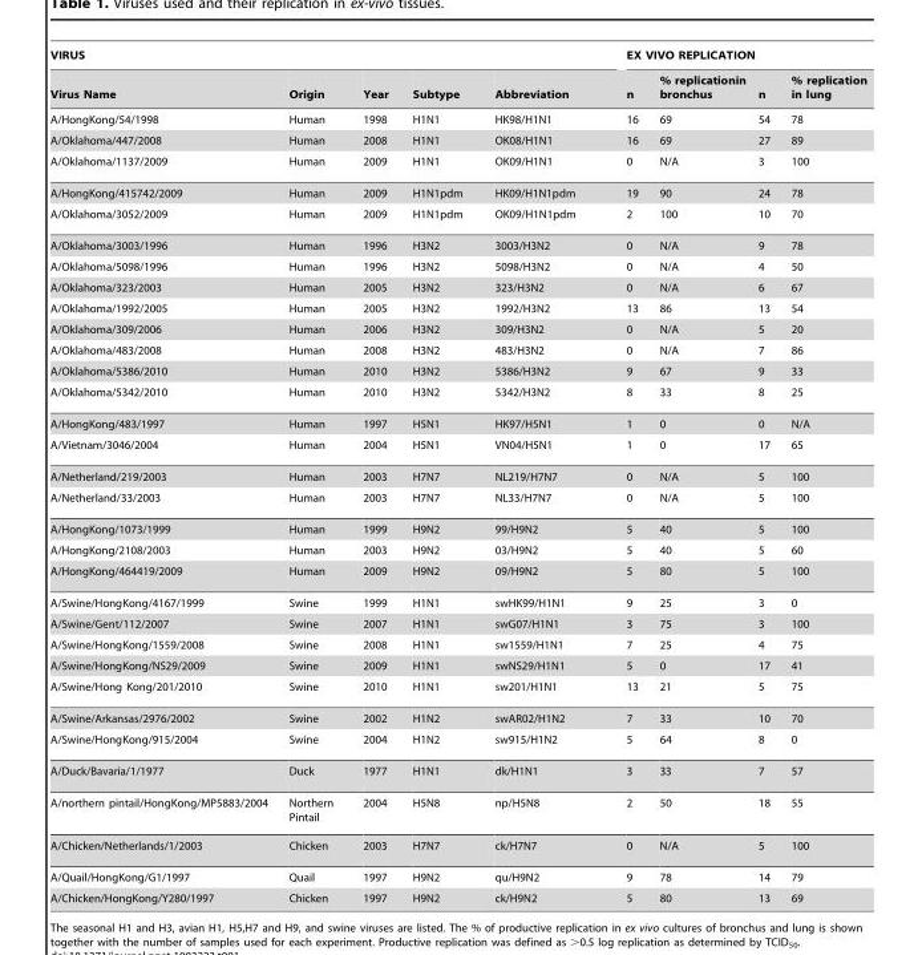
<table><thead><tr><td colspan="5">VIRUS</td><td colspan="4">EX VIVO REPLICATION</td></tr><tr><td>Virus Name</td><td>Origin</td><td>Year</td><td>Subtype</td><td>Abbreviation</td><td>n</td><td>% replicationin bronchus</td><td>n</td><td>% replication in lung</td></tr></thead><tbody><tr><td>A/HongKong/54/1998</td><td>Human</td><td>1998</td><td>H1N1</td><td>HK98/H1N1</td><td>16</td><td>69</td><td>54</td><td>78</td></tr><tr><td>A/Oklahoma/447/2008</td><td>Human</td><td>2008</td><td>H1N1</td><td>OK08/H1N1</td><td>16</td><td>69</td><td>27</td><td>89</td></tr><tr><td>A/Oklahoma/1137/2009</td><td>Human</td><td>2009</td><td>H1N1</td><td>OK09/H1N1</td><td>0</td><td>N/A</td><td>3</td><td>100</td></tr><tr><td>A/HongKong/415742/2009</td><td>Human</td><td>2009</td><td>H1N1pdm</td><td>HK09/H1N1pdm</td><td>19</td><td>90</td><td>24</td><td>78</td></tr><tr><td>A/Oklahoma/3052/2009</td><td>Human</td><td>2009</td><td>H1N1pdm</td><td>OK09/H1N1pdm</td><td>2</td><td>100</td><td>10</td><td>70</td></tr><tr><td>A/Oklahoma/3003/1996</td><td>Human</td><td>1996</td><td>H3N2</td><td>3003/H3N2</td><td>0</td><td>N/A</td><td>9</td><td>78</td></tr><tr><td>A/Oklahoma/5098/1996</td><td>Human</td><td>1996</td><td>H3N2</td><td>5098/H3N2</td><td>0</td><td>N/A</td><td>4</td><td>50</td></tr><tr><td>A/Oklahoma/323/2003</td><td>Human</td><td>2005</td><td>H3N2</td><td>323/H3N2</td><td>0</td><td>N/A</td><td>6</td><td>67</td></tr><tr><td>A/Oklahoma/1992/2005</td><td>Human</td><td>2005</td><td>H3N2</td><td>1992/H3N2</td><td>13</td><td>86</td><td>13</td><td>54</td></tr><tr><td>A/Oklahoma/309/2006</td><td>Human</td><td>2006</td><td>H3N2</td><td>309/H3N2</td><td>0</td><td>N/A</td><td>5</td><td>20</td></tr><tr><td>A/Oklahoma/483/2008</td><td>Human</td><td>2008</td><td>H3N2</td><td>483/H3N2</td><td>0</td><td>N/A</td><td>7</td><td>86</td></tr><tr><td>A/Oklahoma/5386/2010</td><td>Human</td><td>2010</td><td>H3N2</td><td>5386/H3N2</td><td>9</td><td>67</td><td>9</td><td>33</td></tr><tr><td>A/Oklahoma/5342/2010</td><td>Human</td><td>2010</td><td>H3N2</td><td>5342/H3N2</td><td>8</td><td>33</td><td>8</td><td>25</td></tr><tr><td>A/HongKong/483/1997</td><td>Human</td><td>1997</td><td>H5N1</td><td>HK97/H5N1</td><td>1</td><td>0</td><td>0</td><td>N/A</td></tr><tr><td>A/Vietnam/3046/2004</td><td>Human</td><td>2004</td><td>H5N1</td><td>VN04/H5N1</td><td>1</td><td>0</td><td>17</td><td>65</td></tr><tr><td>A/Netherland/219/2003</td><td>Human</td><td>2003</td><td>H7N7</td><td>NL219/H7N7</td><td>0</td><td>N/A</td><td>5</td><td>100</td></tr><tr><td>A/Netherland/33/2003</td><td>Human</td><td>2003</td><td>H7N7</td><td>NL33/H7N7</td><td>0</td><td>N/A</td><td>5</td><td>100</td></tr><tr><td>A/HongKong/1073/1999</td><td>Human</td><td>1999</td><td>H9N2</td><td>99/H9N2</td><td>5</td><td>40</td><td>5</td><td>100</td></tr><tr><td>A/HongKong/2108/2003</td><td>Human</td><td>2003</td><td>H9N2</td><td>03/H9N2</td><td>5</td><td>40</td><td>5</td><td>60</td></tr><tr><td>A/HongKong/464419/2009</td><td>Human</td><td>2009</td><td>H9N2</td><td>09/H9N2</td><td>5</td><td>80</td><td>5</td><td>100</td></tr><tr><td>A/Swine/HongKong/4167/1999</td><td>Swine</td><td>1999</td><td>H1N1</td><td>swHK99/H1N1</td><td>9</td><td>25</td><td>3</td><td>0</td></tr><tr><td>A/Swine/Gent/112/2007</td><td>Swine</td><td>2007</td><td>H1N1</td><td>swG07/H1N1</td><td>3</td><td>75</td><td>3</td><td>100</td></tr><tr><td>A/Swine/HongKong/1559/2008</td><td>Swine</td><td>2008</td><td>H1N1</td><td>sw1559/H1N1</td><td>7</td><td>25</td><td>4</td><td>75</td></tr><tr><td>A/Swine/HongKong/NS29/2009</td><td>Swine</td><td>2009</td><td>H1N1</td><td>swNS29/H1N1</td><td>5</td><td>0</td><td>17</td><td>41</td></tr><tr><td>A/Swine/Hong Kong/201/2010</td><td>Swine</td><td>2010</td><td>H1N1</td><td>sw201/H1N1</td><td>13</td><td>21</td><td>5</td><td>75</td></tr><tr><td>A/Swine/Arkansas/2976/2002</td><td>Swine</td><td>2002</td><td>H1N2</td><td>swAR02/H1N2</td><td>7</td><td>33</td><td>10</td><td>70</td></tr><tr><td>A/Swine/HongKong/915/2004</td><td>Swine</td><td>2004</td><td>H1N2</td><td>sw915/H1N2</td><td>5</td><td>64</td><td>8</td><td>0</td></tr><tr><td>A/Duck/Bavaria/1/1977</td><td>Duck</td><td>1977</td><td>H1N1</td><td>dk/H1N1</td><td>3</td><td>33</td><td>7</td><td>57</td></tr><tr><td>A/northern pintail/HongKong/MP5883/2004</td><td>Northern Pintail</td><td>2004</td><td>H5N8</td><td>np/H5N8</td><td>2</td><td>50</td><td>18</td><td>55</td></tr><tr><td>A/Chicken/Netherlands/1/2003</td><td>Chicken</td><td>2003</td><td>H7N7</td><td>ck/H7N7</td><td>0</td><td>N/A</td><td>5</td><td>100</td></tr><tr><td>A/Quail/HongKong/G1/1997</td><td>Quail</td><td>1997</td><td>H9N2</td><td>qu/H9N2</td><td>9</td><td>78</td><td>14</td><td>79</td></tr><tr><td>A/Chicken/HongKong/Y280/1997</td><td>Chicken</td><td>1997</td><td>H9N2</td><td>ck/H9N2</td><td>5</td><td>80</td><td>13</td><td>69</td></tr></tbody></table>